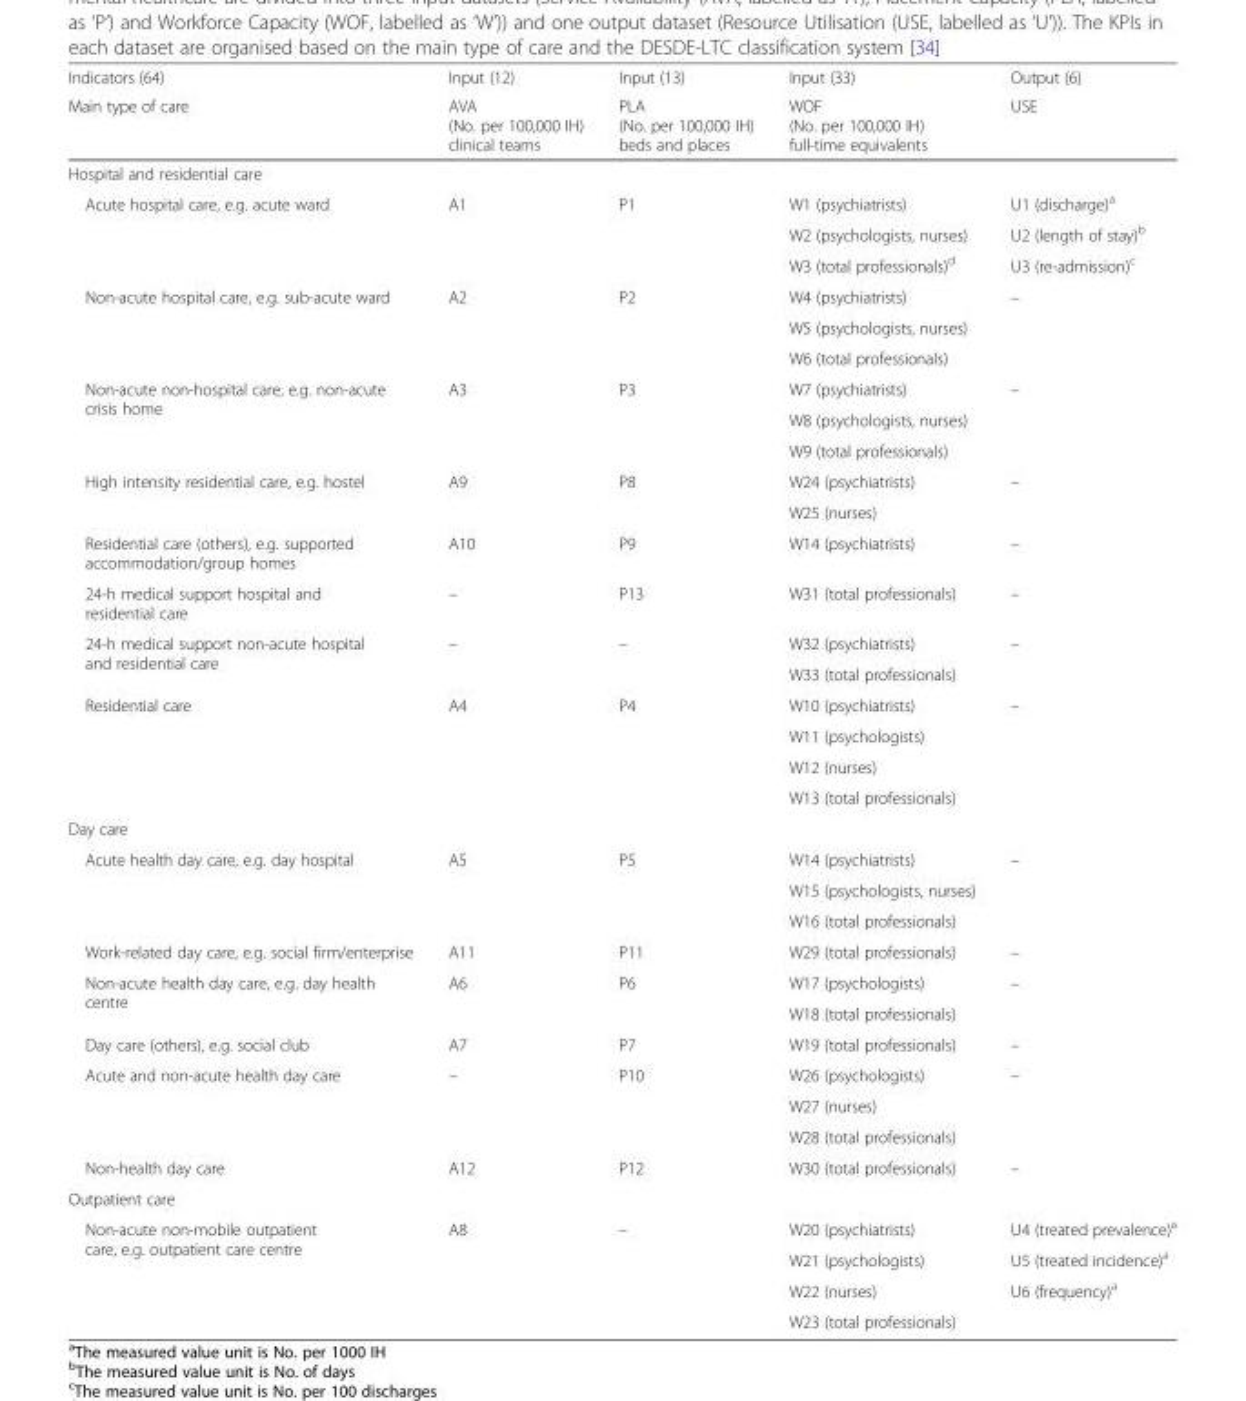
<table><thead><tr><td rowspan="2">Indicators (64) Main type of care</td><td rowspan="2">Input (12) AVA (No. per 100,000 IH) clinical teams</td><td rowspan="2">Input (13) PLA (No. per 100,000 IH) beds and places</td><td rowspan="2">Input (33) WOF (No. per 100,000 IH) full-time equivalents</td><td rowspan="2">Output (6) USE</td></tr><tr></tr></thead><tbody><tr><td colspan="5">Hospital and residential care</td></tr><tr><td rowspan="3">Acute hospital care, e.g. acute ward</td><td rowspan="3">A1</td><td rowspan="3">P1</td><td>W1 (psychiatrists)</td><td>U1 (discharge)<sup>a</sup></td></tr><tr><td>W2 (psychologists, nurses)</td><td>U2 (length of stay)<sup>b</sup></td></tr><tr><td>W3 (total professionals)<sup>d</sup></td><td>U3 (re-admission)<sup>c</sup></td></tr><tr><td rowspan="3">Non-acute hospital care, e.g. sub-acute ward</td><td rowspan="3">A2</td><td rowspan="3">P2</td><td>W4 (psychiatrists)</td><td rowspan="3">–</td></tr><tr><td>W5 (psychologists, nurses)</td></tr><tr><td>W6 (total professionals)</td></tr><tr><td rowspan="3">Non-acute non-hospital care, e.g. non-acute crisis home</td><td rowspan="3">A3</td><td rowspan="3">P3</td><td>W7 (psychiatrists)</td><td rowspan="3">–</td></tr><tr><td>W8 (psychologists, nurses)</td></tr><tr><td>W9 (total professionals)</td></tr><tr><td rowspan="2">High intensity residential care, e.g. hostel</td><td rowspan="2">A9</td><td rowspan="2">P8</td><td>W24 (psychiatrists)</td><td rowspan="2">–</td></tr><tr><td>W25 (nurses)</td></tr><tr><td>Residential care (others), e.g. supported accommodation/group homes</td><td>A10</td><td>P9</td><td>W14 (psychiatrists)</td><td>–</td></tr><tr><td>24-h medical support hospital and residential care</td><td>–</td><td>P13</td><td>W31 (total professionals)</td><td>–</td></tr><tr><td rowspan="2">24-h medical support non-acute hospital and residential care</td><td rowspan="2">–</td><td rowspan="2">–</td><td>W32 (psychiatrists)</td><td rowspan="2">–</td></tr><tr><td>W33 (total professionals)</td></tr><tr><td rowspan="4">Residential care</td><td rowspan="4">A4</td><td rowspan="4">P4</td><td>W10 (psychiatrists)</td><td rowspan="4">–</td></tr><tr><td>W11 (psychologists)</td></tr><tr><td>W12 (nurses)</td></tr><tr><td>W13 (total professionals)</td></tr><tr><td colspan="5">Day care</td></tr><tr><td rowspan="3">Acute health day care, e.g. day hospital</td><td rowspan="3">A5</td><td rowspan="3">P5</td><td>W14 (psychiatrists)</td><td rowspan="3">–</td></tr><tr><td>W15 (psychologists, nurses)</td></tr><tr><td>W16 (total professionals)</td></tr><tr><td>Work-related day care, e.g. social firm/enterprise</td><td>A11</td><td>P11</td><td>W29 (total professionals)</td><td>–</td></tr><tr><td rowspan="2">Non-acute health day care, e.g. day health centre</td><td rowspan="2">A6</td><td rowspan="2">P6</td><td>W17 (psychologists)</td><td rowspan="2">–</td></tr><tr><td>W18 (total professionals)</td></tr><tr><td>Day care (others), e.g. social club</td><td>A7</td><td>P7</td><td>W19 (total professionals)</td><td>–</td></tr><tr><td rowspan="3">Acute and non-acute health day care</td><td rowspan="3">–</td><td rowspan="3">P10</td><td>W26 (psychologists)</td><td rowspan="3">–</td></tr><tr><td>W27 (nurses)</td></tr><tr><td>W28 (total professionals)</td></tr><tr><td>Non-health day care</td><td>A12</td><td>P12</td><td>W30 (total professionals)</td><td>–</td></tr><tr><td colspan="5">Outpatient care</td></tr><tr><td rowspan="4">Non-acute non-mobile outpatient care, e.g. outpatient care centre</td><td rowspan="4">A8</td><td rowspan="4">–</td><td>W20 (psychiatrists)</td><td>U4 (treated prevalence)<sup>a</sup></td></tr><tr><td>W21 (psychologists)</td><td>U5 (treated incidence)<sup>a</sup></td></tr><tr><td>W22 (nurses)</td><td>U6 (frequency)<sup>a</sup></td></tr><tr><td>W23 (total professionals)</td><td></td></tr></tbody></table>